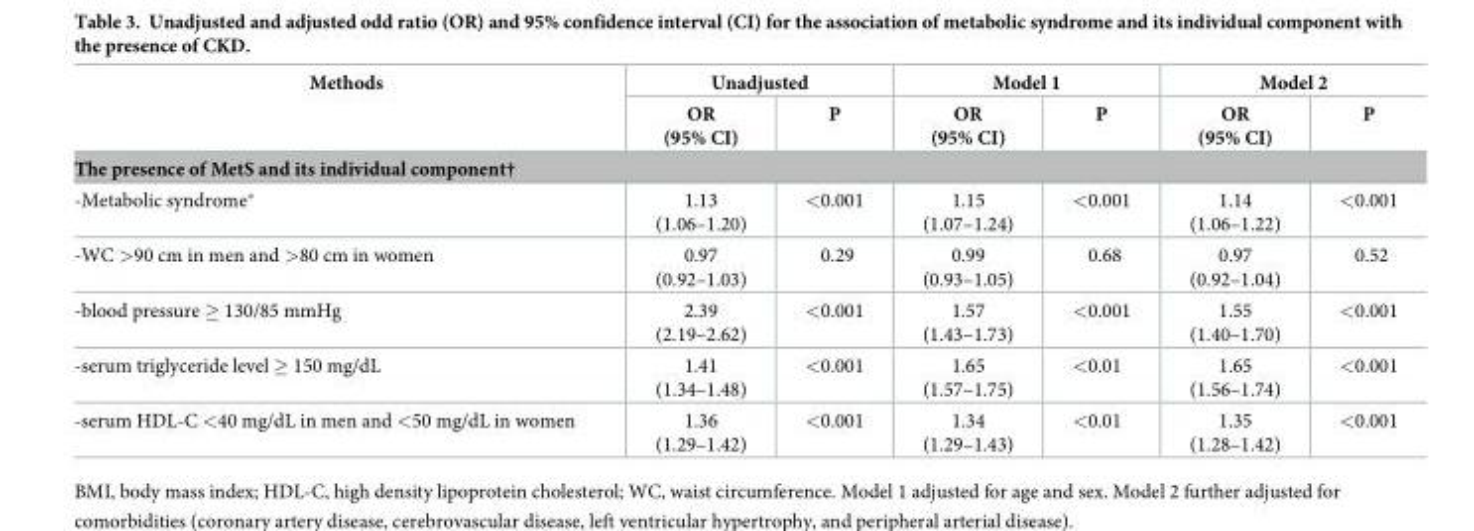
<table><thead><tr><td rowspan="2">Methods</td><td colspan="2">Unadjusted</td><td colspan="2">Model 1</td><td colspan="2">Model 2</td></tr><tr><td>OR (95% CI)</td><td>P</td><td>OR (95% CI)</td><td>P</td><td>OR (95% CI)</td><td>P</td></tr><tr><td colspan="7">The presence of MetS and its individual component†</td></tr></thead><tbody><tr><td>-Metabolic syndrome*</td><td>1.13 (1.06–1.20)</td><td>&lt;0.001</td><td>1.15 (1.07–1.24)</td><td>&lt;0.001</td><td>1.14 (1.06–1.22)</td><td>&lt;0.001</td></tr><tr><td>-WC &gt;90 cm in men and &gt;80 cm in women</td><td>0.97 (0.92–1.03)</td><td>0.29</td><td>0.99 (0.93–1.05)</td><td>0.68</td><td>0.97 (0.92–1.04)</td><td>0.52</td></tr><tr><td>-blood pressure ≥ 130/85 mmHg</td><td>2.39 (2.19–2.62)</td><td>&lt;0.001</td><td>1.57 (1.43–1.73)</td><td>&lt;0.001</td><td>1.55 (1.40–1.70)</td><td>&lt;0.001</td></tr><tr><td>-serum triglyceride level ≥ 150 mg/dL</td><td>1.41 (1.34–1.48)</td><td>&lt;0.001</td><td>1.65 (1.57–1.75)</td><td>&lt;0.01</td><td>1.65 (1.56–1.74)</td><td>&lt;0.001</td></tr><tr><td>-serum HDL-C &lt;40 mg/dL in men and &lt;50 mg/dL in women</td><td>1.36 (1.29–1.42)</td><td>&lt;0.001</td><td>1.34 (1.29–1.43)</td><td>&lt;0.01</td><td>1.35 (1.28–1.42)</td><td>&lt;0.001</td></tr></tbody></table>